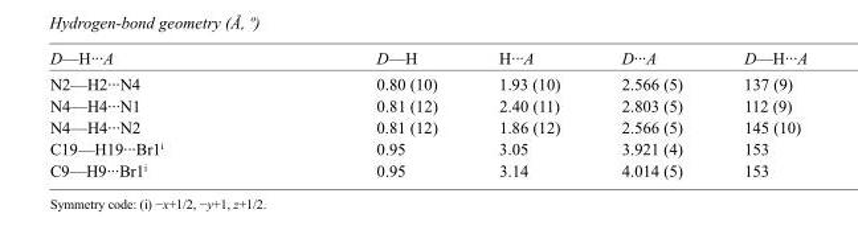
<table><tbody><tr><td>D—H···A</td><td>D—H</td><td>H···A</td><td>D···A</td><td>D—H···A</td></tr><tr><td>N2—H2···N4</td><td>0.80 (10)</td><td>1.93 (10)</td><td>2.566 (5)</td><td>137 (9)</td></tr><tr><td>N4—H4···N1</td><td>0.81 (12)</td><td>2.40 (11)</td><td>2.803 (5)</td><td>112 (9)</td></tr><tr><td>N4—H4···N2</td><td>0.81 (12)</td><td>1.86 (12)</td><td>2.566 (5)</td><td>145 (10)</td></tr><tr><td>C19—H19···Br1<sup>i</sup></td><td>0.95</td><td>3.05</td><td>3.921 (4)</td><td>153</td></tr><tr><td>C9—H9···Br1<sup>i</sup></td><td>0.95</td><td>3.14</td><td>4.014 (5)</td><td>153</td></tr></tbody></table>